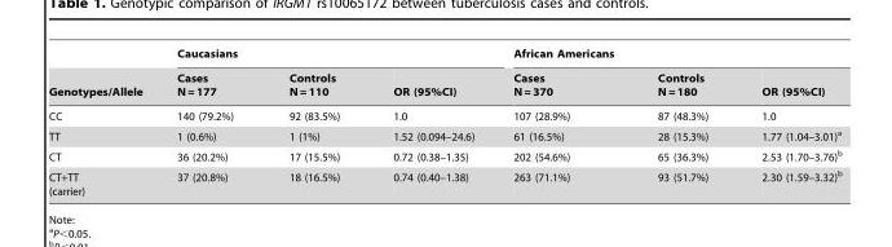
<table><thead><tr><td rowspan="2">Genotypes/Allele</td><td colspan="3">Caucasians</td><td colspan="3">African Americans</td></tr><tr><td>Cases N = 177</td><td>Controls N = 110</td><td>OR (95%CI)</td><td>Cases N = 370</td><td>Controls N = 180</td><td>OR (95%CI)</td></tr></thead><tbody><tr><td>CC</td><td>140 (79.2%)</td><td>92 (83.5%)</td><td>1.0</td><td>107 (28.9%)</td><td>87 (48.3%)</td><td>1.0</td></tr><tr><td>TT</td><td>1 (0.6%)</td><td>1 (1%)</td><td>1.52 (0.094–24.6)</td><td>61 (16.5%)</td><td>28 (15.3%)</td><td>1.77 (1.04–3.01)<sup>a</sup></td></tr><tr><td>CT</td><td>36 (20.2%)</td><td>17 (15.5%)</td><td>0.72 (0.38–1.35)</td><td>202 (54.6%)</td><td>65 (36.3%)</td><td>2.53 (1.70–3.76)<sup>b</sup></td></tr><tr><td>CT+TT (carrier)</td><td>37 (20.8%)</td><td>18 (16.5%)</td><td>0.74 (0.40–1.38)</td><td>263 (71.1%)</td><td>93 (51.7%)</td><td>2.30 (1.59–3.32)<sup>b</sup></td></tr></tbody></table>